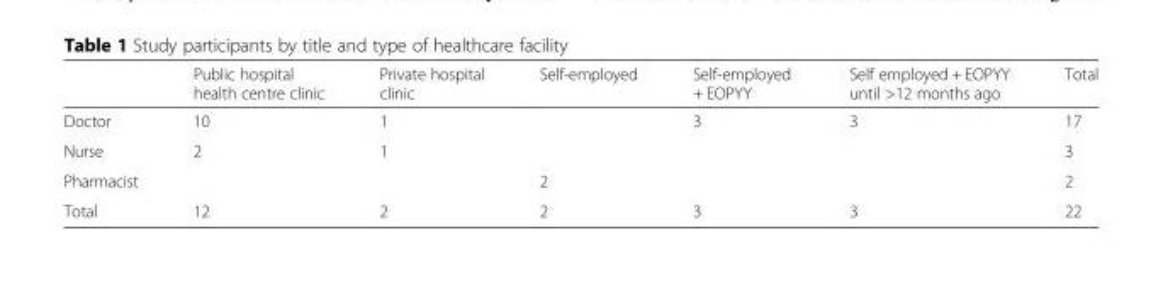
<table><thead><tr><td></td><td>Public hospital health centre clinic</td><td>Private hospital clinic</td><td>Self-employed</td><td>Self-employed + EOPYY</td><td>Self employed + EOPYY until &gt;12 months ago</td><td>Total</td></tr></thead><tbody><tr><td>Doctor</td><td>10</td><td>1</td><td></td><td>3</td><td>3</td><td>17</td></tr><tr><td>Nurse</td><td>2</td><td>1</td><td></td><td></td><td></td><td>3</td></tr><tr><td>Pharmacist</td><td></td><td></td><td>2</td><td></td><td></td><td>2</td></tr><tr><td>Total</td><td>12</td><td>2</td><td>2</td><td>3</td><td>3</td><td>22</td></tr></tbody></table>